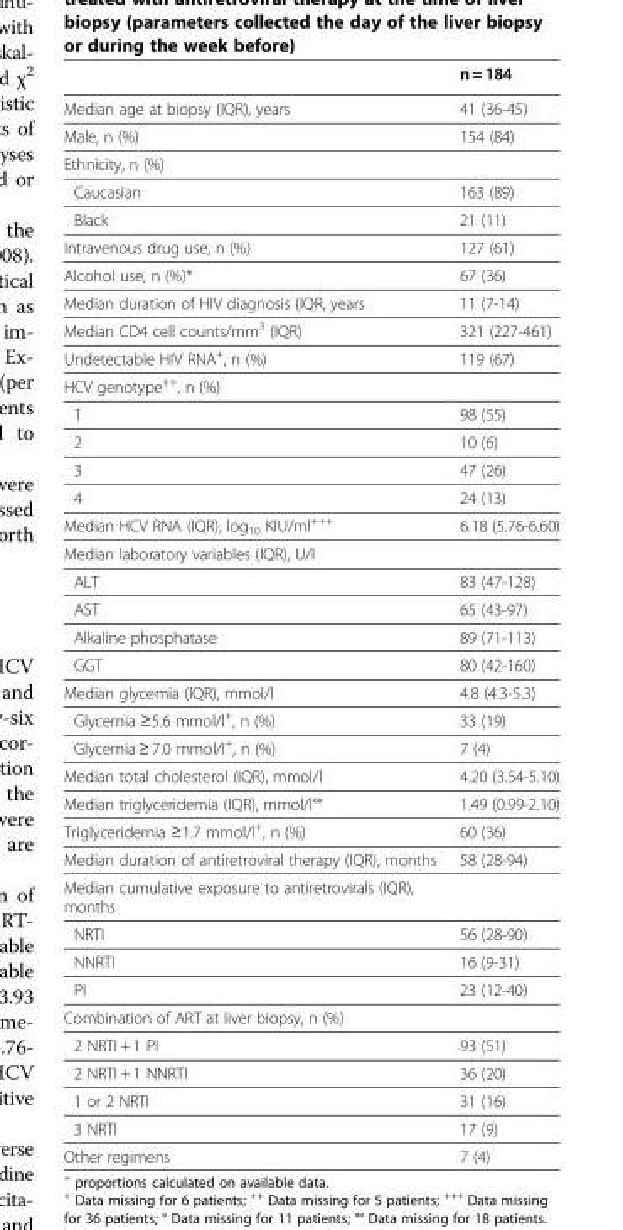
<table><thead><tr><td></td><td>n = 184</td></tr></thead><tbody><tr><td>Median age at biopsy (IQR), years</td><td>41 (36-45)</td></tr><tr><td>Male, n (%)</td><td>154 (84)</td></tr><tr><td colspan="2">Ethnicity, n (%)</td></tr><tr><td>Caucasian</td><td>163 (89)</td></tr><tr><td>Black</td><td>21 (11)</td></tr><tr><td>Intravenous drug use, n (%)</td><td>127 (61)</td></tr><tr><td>Alcohol use, n (%)*</td><td>67 (36)</td></tr><tr><td>Median duration of HIV diagnosis (IQR, years</td><td>11 (7-14)</td></tr><tr><td>Median CD4 cell counts/mm<sup>3</sup> (IQR)</td><td>321 (227-461)</td></tr><tr><td>Undetectable HIV RNA<sup>+</sup>, n (%)</td><td>119 (67)</td></tr><tr><td colspan="2">HCV genotype<sup>++</sup>, n (%)</td></tr><tr><td>1</td><td>98 (55)</td></tr><tr><td>2</td><td>10 (6)</td></tr><tr><td>3</td><td>47 (26)</td></tr><tr><td>4</td><td>24 (13)</td></tr><tr><td>Median HCV RNA (IQR), log<sub>10</sub> KIU/ml<sup>+++</sup></td><td>6.18 (5.76-6.60)</td></tr><tr><td colspan="2">Median laboratory variables (IQR), U/l</td></tr><tr><td>ALT</td><td>83 (47-128)</td></tr><tr><td>AST</td><td>65 (43-97)</td></tr><tr><td>Alkaline phosphatase</td><td>89 (71-113)</td></tr><tr><td>GGT</td><td>80 (42-160)</td></tr><tr><td>Median glycemia (IQR), mmol/l</td><td>4.8 (4.3-5.3)</td></tr><tr><td>Glycemia ≥5.6 mmol/l+, n (%)</td><td>33 (19)</td></tr><tr><td>Glycemia ≥ 7.0 mmol/l+, n (%)</td><td>7 (4)</td></tr><tr><td>Median total cholesterol (IQR), mmol/l</td><td>4.20 (3.54-5.10)</td></tr><tr><td>Median triglyceridemia (IQR), mmol/l°°</td><td>1.49 (0.99-2.10)</td></tr><tr><td>Triglyceridemia ≥1.7 mmol/l+, n (%)</td><td>60 (36)</td></tr><tr><td>Median duration of antiretroviral therapy (IQR), months</td><td>58 (28-94)</td></tr><tr><td colspan="2">Median cumulative exposure to antiretrovirals (IQR), months</td></tr><tr><td>NRTI</td><td>56 (28-90)</td></tr><tr><td>NNRTI</td><td>16 (9-31)</td></tr><tr><td>PI</td><td>23 (12-40)</td></tr><tr><td colspan="2">Combination of ART at liver biopsy, n (%)</td></tr><tr><td>2 NRTI + 1 PI</td><td>93 (51)</td></tr><tr><td>2 NRTI + 1 NNRTI</td><td>36 (20)</td></tr><tr><td>1 or 2 NRTI</td><td>31 (16)</td></tr><tr><td>3 NRTI</td><td>17 (9)</td></tr><tr><td>Other regimens</td><td>7 (4)</td></tr></tbody></table>